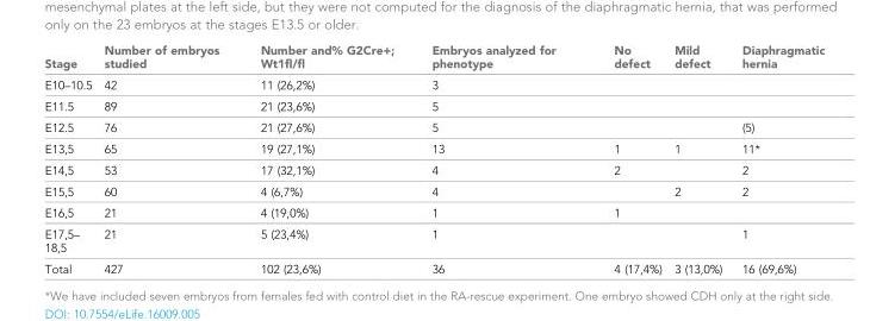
<table><thead><tr><td>Stage</td><td>Number of embryos studied</td><td>Number and% G2Cre+; Wt1fl/fl</td><td>Embryos analyzed for phenotype</td><td>No defect</td><td>Mild defect</td><td>Diaphragmatic hernia</td></tr></thead><tbody><tr><td>E10–10.5</td><td>42</td><td>11 (26,2%)</td><td>3</td><td></td><td></td><td></td></tr><tr><td>E11.5</td><td>89</td><td>21 (23,6%)</td><td>5</td><td></td><td></td><td></td></tr><tr><td>E12.5</td><td>76</td><td>21 (27,6%)</td><td>5</td><td></td><td></td><td>(5)</td></tr><tr><td>E13,5</td><td>65</td><td>19 (27,1%)</td><td>13</td><td>1</td><td>1</td><td>11*</td></tr><tr><td>E14,5</td><td>53</td><td>17 (32,1%)</td><td>4</td><td>2</td><td></td><td>2</td></tr><tr><td>E15,5</td><td>60</td><td>4 (6,7%)</td><td>4</td><td></td><td>2</td><td>2</td></tr><tr><td>E16,5</td><td>21</td><td>4 (19,0%)</td><td>1</td><td>1</td><td></td><td></td></tr><tr><td>E17,5– 18,5</td><td>21</td><td>5 (23,4%)</td><td>1</td><td></td><td></td><td>1</td></tr><tr><td>Total</td><td>427</td><td>102 (23,6%)</td><td>36</td><td>4 (17,4%)</td><td>3 (13,0%)</td><td>16 (69,6%)</td></tr></tbody></table>